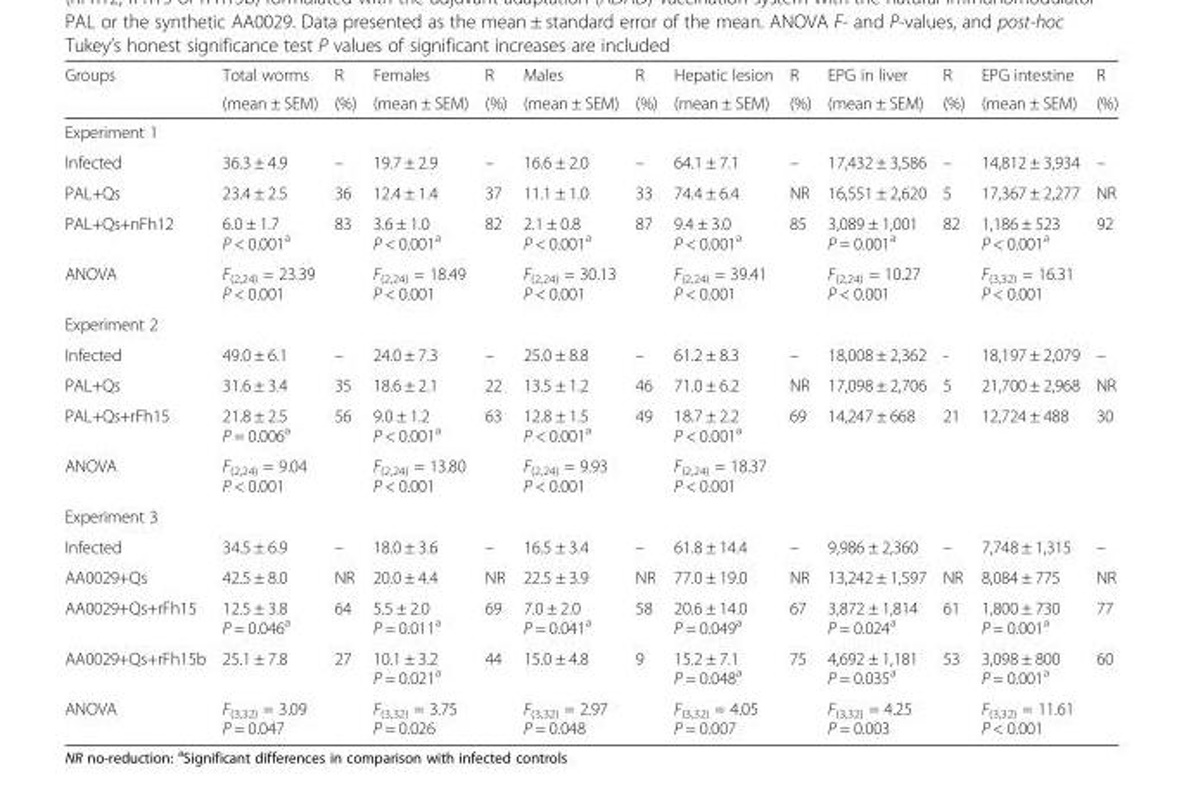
<table><thead><tr><td rowspan="2">Groups</td><td rowspan="2">Total worms (mean ± SEM)</td><td rowspan="2">R (%)</td><td rowspan="2">Females (mean ± SEM)</td><td rowspan="2">R (%)</td><td rowspan="2">Males (mean ± SEM)</td><td rowspan="2">R (%)</td><td rowspan="2">Hepatic lesion (mean ± SEM)</td><td rowspan="2">R (%)</td><td rowspan="2">EPG in liver (mean ± SEM)</td><td rowspan="2">R (%)</td><td rowspan="2">EPG intestine (mean ± SEM)</td><td rowspan="2">R (%)</td></tr><tr></tr></thead><tbody><tr><td colspan="13">Experiment 1</td></tr><tr><td>Infected</td><td>36.3 ± 4.9</td><td>–</td><td>19.7 ± 2.9</td><td>–</td><td>16.6 ± 2.0</td><td>–</td><td>64.1 ± 7.1</td><td>–</td><td>17,432 ± 3,586</td><td>–</td><td>14,812 ± 3,934</td><td>–</td></tr><tr><td>PAL+Qs</td><td>23.4 ± 2.5</td><td>36</td><td>12.4 ± 1.4</td><td>37</td><td>11.1 ± 1.0</td><td>33</td><td>74.4 ± 6.4</td><td>NR</td><td>16,551 ± 2,620</td><td>5</td><td>17,367 ± 2,277</td><td>NR</td></tr><tr><td>PAL+Qs+nFh12</td><td>6.0 ± 1.7 P &lt; 0.001<sup>a</sup></td><td>83</td><td>3.6 ± 1.0 P &lt; 0.001<sup>a</sup></td><td>82</td><td>2.1 ± 0.8 P &lt; 0.001<sup>a</sup></td><td>87</td><td>9.4 ± 3.0 P &lt; 0.001<sup>a</sup></td><td>85</td><td>3,089 ± 1,001 P = 0.001<sup>a</sup></td><td>82</td><td>1,186 ± 523 P &lt; 0.001<sup>a</sup></td><td>92</td></tr><tr><td>ANOVA</td><td>F<sub>(2,24)</sub> = 23.39 P &lt; 0.001</td><td></td><td>F<sub>(2,24)</sub> = 18.49 P &lt; 0.001</td><td></td><td>F<sub>(2,24)</sub> = 30.13 P &lt; 0.001</td><td></td><td>F<sub>(2,24)</sub> = 39.41 P &lt; 0.001</td><td></td><td>F<sub>(2,24)</sub> = 10.27 P &lt; 0.001</td><td></td><td>F<sub>(3,32)</sub> = 16.31 P &lt; 0.001</td><td></td></tr><tr><td colspan="13">Experiment 2</td></tr><tr><td>Infected</td><td>49.0 ± 6.1</td><td>–</td><td>24.0 ± 7.3</td><td>–</td><td>25.0 ± 8.8</td><td>–</td><td>61.2 ± 8.3</td><td>–</td><td>18,008 ± 2,362</td><td>-</td><td>18,197 ± 2,079</td><td>–</td></tr><tr><td>PAL+Qs</td><td>31.6 ± 3.4</td><td>35</td><td>18.6 ± 2.1</td><td>22</td><td>13.5 ± 1.2</td><td>46</td><td>71.0 ± 6.2</td><td>NR</td><td>17,098 ± 2,706</td><td>5</td><td>21,700 ± 2,968</td><td>NR</td></tr><tr><td>PAL+Qs+rFh15</td><td>21.8 ± 2.5 P = 0.006<sup>a</sup></td><td>56</td><td>9.0 ± 1.2 P &lt; 0.001<sup>a</sup></td><td>63</td><td>12.8 ± 1.5 P &lt; 0.001<sup>a</sup></td><td>49</td><td>18.7 ± 2.2 P &lt; 0.001<sup>a</sup></td><td>69</td><td>14,247 ± 668</td><td>21</td><td>12,724 ± 488</td><td>30</td></tr><tr><td>ANOVA</td><td>F<sub>(2,24)</sub> = 9.04 P &lt; 0.001</td><td></td><td>F<sub>(2,24)</sub> = 13.80 P &lt; 0.001</td><td></td><td>F<sub>(2,24)</sub> = 9.93 P &lt; 0.001</td><td></td><td>F<sub>(2,24)</sub> = 18.37 P &lt; 0.001</td><td></td><td></td><td></td><td></td><td></td></tr><tr><td colspan="13">Experiment 3</td></tr><tr><td>Infected</td><td>34.5 ± 6.9</td><td>–</td><td>18.0 ± 3.6</td><td>–</td><td>16.5 ± 3.4</td><td>–</td><td>61.8 ± 14.4</td><td>–</td><td>9,986 ± 2,360</td><td>–</td><td>7,748 ± 1,315</td><td>–</td></tr><tr><td>AA0029+Qs</td><td>42.5 ± 8.0</td><td>NR</td><td>20.0 ± 4.4</td><td>NR</td><td>22.5 ± 3.9</td><td>NR</td><td>77.0 ± 19.0</td><td>NR</td><td>13,242 ± 1,597</td><td>NR</td><td>8,084 ± 775</td><td>NR</td></tr><tr><td>AA0029+Qs+rFh15</td><td>12.5 ± 3.8 P = 0.046<sup>a</sup></td><td>64</td><td>5.5 ± 2.0 P = 0.011<sup>a</sup></td><td>69</td><td>7.0 ± 2.0 P = 0.041<sup>a</sup></td><td>58</td><td>20.6 ± 14.0 P = 0.049<sup>a</sup></td><td>67</td><td>3,872 ± 1,814 P = 0.024<sup>a</sup></td><td>61</td><td>1,800 ± 730 P = 0.001<sup>a</sup></td><td>77</td></tr><tr><td>AA0029+Qs+rFh15b</td><td>25.1 ± 7.8</td><td>27</td><td>10.1 ± 3.2 P = 0.021<sup>a</sup></td><td>44</td><td>15.0 ± 4.8</td><td>9</td><td>15.2 ± 7.1 P = 0.048<sup>a</sup></td><td>75</td><td>4,692 ± 1,181 P = 0.035<sup>a</sup></td><td>53</td><td>3,098 ± 800 P = 0.001<sup>a</sup></td><td>60</td></tr><tr><td>ANOVA</td><td>F<sub>(3,32)</sub> = 3.09 P = 0.047</td><td></td><td>F<sub>(3,32)</sub> = 3.75 P = 0.026</td><td></td><td>F<sub>(3,32)</sub> = 2.97 P = 0.048</td><td></td><td>F<sub>(3,32)</sub> = 4.05 P = 0.007</td><td></td><td>F<sub>(3,32)</sub> = 4.25 P = 0.003</td><td></td><td>F<sub>(3,32)</sub> = 11.61 P &lt; 0.001</td><td></td></tr></tbody></table>